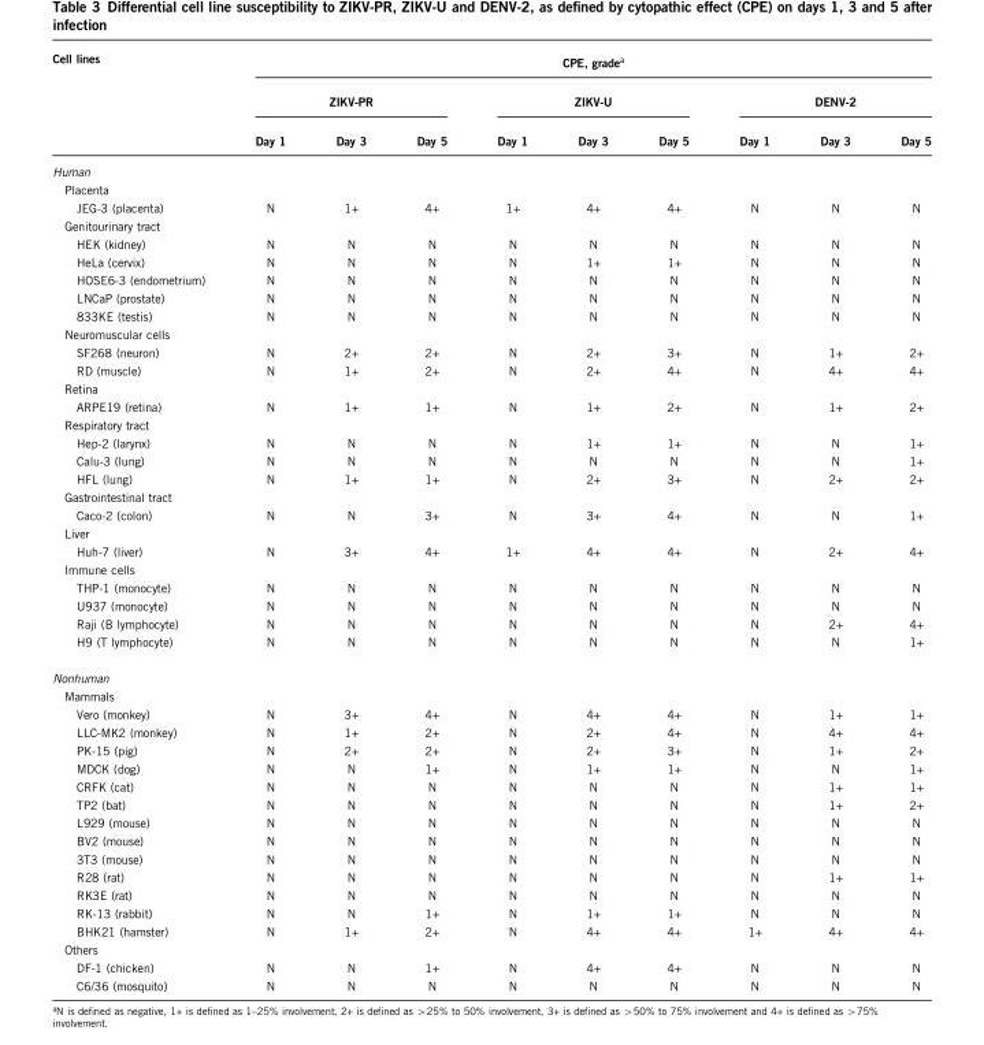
<table><thead><tr><td rowspan="3">Cell lines</td><td colspan="9">CPE, grade<sup>a</sup></td></tr><tr><td colspan="3">ZIKV-PR</td><td colspan="3">ZIKV-U</td><td colspan="3">DENV-2</td></tr><tr><td>Day 1</td><td>Day 3</td><td>Day 5</td><td>Day 1</td><td>Day 3</td><td>Day 5</td><td>Day 1</td><td>Day 3</td><td>Day 5</td></tr></thead><tbody><tr><td colspan="10">Human</td></tr><tr><td colspan="10">Placenta</td></tr><tr><td>JEG-3 (placenta)</td><td>N</td><td>1+</td><td>4+</td><td>1+</td><td>4+</td><td>4+</td><td>N</td><td>N</td><td>N</td></tr><tr><td colspan="10">Genitourinary tract</td></tr><tr><td>HEK (kidney)</td><td>N</td><td>N</td><td>N</td><td>N</td><td>N</td><td>N</td><td>N</td><td>N</td><td>N</td></tr><tr><td>HeLa (cervix)</td><td>N</td><td>N</td><td>N</td><td>N</td><td>1+</td><td>1+</td><td>N</td><td>N</td><td>N</td></tr><tr><td>HOSE6-3 (endometrium)</td><td>N</td><td>N</td><td>N</td><td>N</td><td>N</td><td>N</td><td>N</td><td>N</td><td>N</td></tr><tr><td>LNCaP (prostate)</td><td>N</td><td>N</td><td>N</td><td>N</td><td>N</td><td>N</td><td>N</td><td>N</td><td>N</td></tr><tr><td>833KE (testis)</td><td>N</td><td>N</td><td>N</td><td>N</td><td>N</td><td>N</td><td>N</td><td>N</td><td>N</td></tr><tr><td colspan="10">Neuromuscular cells</td></tr><tr><td>SF268 (neuron)</td><td>N</td><td>2+</td><td>2+</td><td>N</td><td>2+</td><td>3+</td><td>N</td><td>1+</td><td>2+</td></tr><tr><td>RD (muscle)</td><td>N</td><td>1+</td><td>2+</td><td>N</td><td>2+</td><td>4+</td><td>N</td><td>4+</td><td>4+</td></tr><tr><td colspan="10">Retina</td></tr><tr><td>ARPE19 (retina)</td><td>N</td><td>1+</td><td>1+</td><td>N</td><td>1+</td><td>2+</td><td>N</td><td>1+</td><td>2+</td></tr><tr><td colspan="10">Respiratory tract</td></tr><tr><td>Hep-2 (larynx)</td><td>N</td><td>N</td><td>N</td><td>N</td><td>1+</td><td>1+</td><td>N</td><td>N</td><td>1+</td></tr><tr><td>Calu-3 (lung)</td><td>N</td><td>N</td><td>N</td><td>N</td><td>N</td><td>N</td><td>N</td><td>N</td><td>1+</td></tr><tr><td>HFL (lung)</td><td>N</td><td>1+</td><td>1+</td><td>N</td><td>2+</td><td>3+</td><td>N</td><td>2+</td><td>2+</td></tr><tr><td colspan="10">Gastrointestinal tract</td></tr><tr><td>Caco-2 (colon)</td><td>N</td><td>N</td><td>3+</td><td>N</td><td>3+</td><td>4+</td><td>N</td><td>N</td><td>1+</td></tr><tr><td colspan="10">Liver</td></tr><tr><td>Huh-7 (liver)</td><td>N</td><td>3+</td><td>4+</td><td>1+</td><td>4+</td><td>4+</td><td>N</td><td>2+</td><td>4+</td></tr><tr><td colspan="10">Immune cells</td></tr><tr><td>THP-1 (monocyte)</td><td>N</td><td>N</td><td>N</td><td>N</td><td>N</td><td>N</td><td>N</td><td>N</td><td>N</td></tr><tr><td>U937 (monocyte)</td><td>N</td><td>N</td><td>N</td><td>N</td><td>N</td><td>N</td><td>N</td><td>N</td><td>N</td></tr><tr><td>Raji (B lymphocyte)</td><td>N</td><td>N</td><td>N</td><td>N</td><td>N</td><td>N</td><td>N</td><td>2+</td><td>4+</td></tr><tr><td>H9 (T lymphocyte)</td><td>N</td><td>N</td><td>N</td><td>N</td><td>N</td><td>N</td><td>N</td><td>N</td><td>1+</td></tr><tr><td colspan="10">Nonhuman</td></tr><tr><td colspan="10">Mammals</td></tr><tr><td>Vero (monkey)</td><td>N</td><td>3+</td><td>4+</td><td>N</td><td>4+</td><td>4+</td><td>N</td><td>1+</td><td>1+</td></tr><tr><td>LLC-MK2 (monkey)</td><td>N</td><td>1+</td><td>2+</td><td>N</td><td>2+</td><td>4+</td><td>N</td><td>4+</td><td>4+</td></tr><tr><td>PK-15 (pig)</td><td>N</td><td>2+</td><td>2+</td><td>N</td><td>2+</td><td>3+</td><td>N</td><td>1+</td><td>2+</td></tr><tr><td>MDCK (dog)</td><td>N</td><td>N</td><td>1+</td><td>N</td><td>1+</td><td>1+</td><td>N</td><td>N</td><td>1+</td></tr><tr><td>CRFK (cat)</td><td>N</td><td>N</td><td>N</td><td>N</td><td>N</td><td>N</td><td>N</td><td>1+</td><td>1+</td></tr><tr><td>TP2 (bat)</td><td>N</td><td>N</td><td>N</td><td>N</td><td>N</td><td>N</td><td>N</td><td>1+</td><td>2+</td></tr><tr><td>L929 (mouse)</td><td>N</td><td>N</td><td>N</td><td>N</td><td>N</td><td>N</td><td>N</td><td>N</td><td>N</td></tr><tr><td>BV2 (mouse)</td><td>N</td><td>N</td><td>N</td><td>N</td><td>N</td><td>N</td><td>N</td><td>N</td><td>N</td></tr><tr><td>3T3 (mouse)</td><td>N</td><td>N</td><td>N</td><td>N</td><td>N</td><td>N</td><td>N</td><td>N</td><td>N</td></tr><tr><td>R28 (rat)</td><td>N</td><td>N</td><td>N</td><td>N</td><td>N</td><td>N</td><td>N</td><td>1+</td><td>1+</td></tr><tr><td>RK3E (rat)</td><td>N</td><td>N</td><td>N</td><td>N</td><td>N</td><td>N</td><td>N</td><td>N</td><td>N</td></tr><tr><td>RK-13 (rabbit)</td><td>N</td><td>N</td><td>1+</td><td>N</td><td>1+</td><td>1+</td><td>N</td><td>N</td><td>N</td></tr><tr><td>BHK21 (hamster)</td><td>N</td><td>1+</td><td>2+</td><td>N</td><td>4+</td><td>4+</td><td>1+</td><td>4+</td><td>4+</td></tr><tr><td colspan="10">Others</td></tr><tr><td>DF-1 (chicken)</td><td>N</td><td>N</td><td>1+</td><td>N</td><td>4+</td><td>4+</td><td>N</td><td>N</td><td>N</td></tr><tr><td>C6/36 (mosquito)</td><td>N</td><td>N</td><td>N</td><td>N</td><td>N</td><td>N</td><td>N</td><td>N</td><td>N</td></tr></tbody></table>